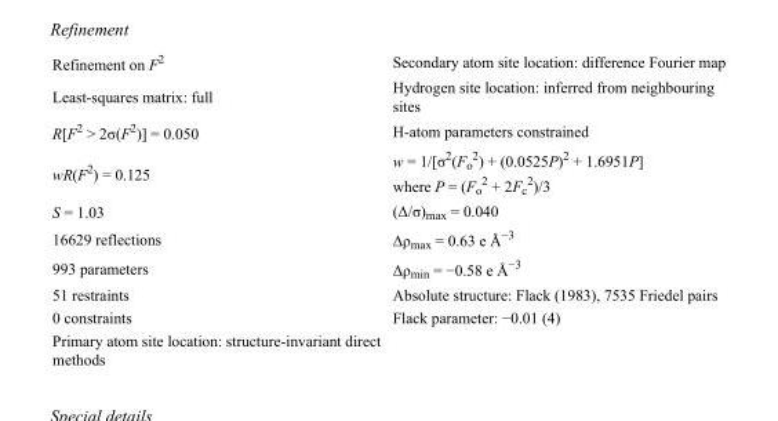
<table><tbody><tr><td>Refinement on F<sup>2</sup></td><td>Secondary atom site location: difference Fourier map</td></tr><tr><td>Least-squares matrix: full</td><td>Hydrogen site location: inferred from neighbouring sites</td></tr><tr><td>R[F<sup>2</sup> &gt; 2σ(F<sup>2</sup>)] = 0.050</td><td>H-atom parameters constrained</td></tr><tr><td>wR(F<sup>2</sup>) = 0.125</td><td>w = 1/[σ<sup>2</sup>(F<sub>o</sub> <sup>2</sup>) + (0.0525P)<sup>2</sup> + 1.6951P] where P = (F<sub>o</sub> <sup>2</sup> + 2F<sub>c</sub> <sup>2</sup>)/3</td></tr><tr><td>S = 1.03</td><td>(Δ/σ)<sub>max</sub> = 0.040</td></tr><tr><td>16629 reflections</td><td>Δρ<sub>max</sub> = 0.63 e Å<sup>−3</sup></td></tr><tr><td>993 parameters</td><td>Δρ<sub>min</sub> = −0.58 e Å<sup>−3</sup></td></tr><tr><td>51 restraints</td><td>Absolute structure: Flack (1983), 7535 Friedel pairs</td></tr><tr><td>0 constraints</td><td>Flack parameter: −0.01 (4)</td></tr><tr><td>Primary atom site location: structure-invariant direct methods</td><td></td></tr></tbody></table>